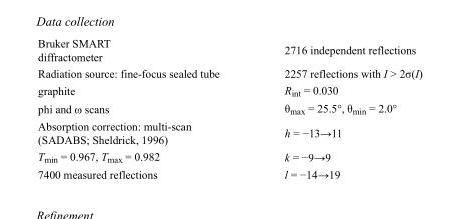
<table><tbody><tr><td>Bruker SMART diffractometer</td><td>2716 independent reflections</td></tr><tr><td>Radiation source: fine-focus sealed tube</td><td>2257 reflections with I &gt; 2σ(I)</td></tr><tr><td>graphite</td><td>R<sub>int</sub> = 0.030</td></tr><tr><td>phi and ω scans</td><td>θ<sub>max</sub> = 25.5°, θ<sub>min</sub> = 2.0°</td></tr><tr><td>Absorption correction: multi-scan (SADABS; Sheldrick, 1996)</td><td>h = −13→11</td></tr><tr><td>T<sub>min</sub> = 0.967, T<sub>max</sub> = 0.982</td><td>k = −9→9</td></tr><tr><td>7400 measured reflections</td><td>l = −14→19</td></tr></tbody></table>